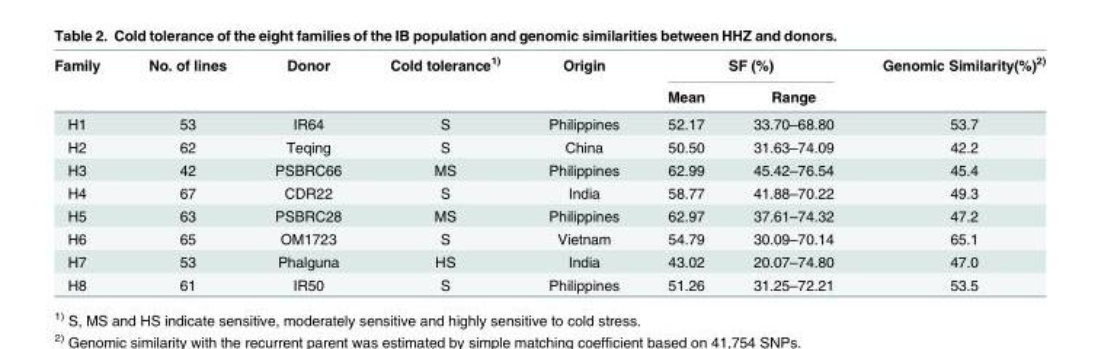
<table><thead><tr><td rowspan="2">Family</td><td rowspan="2">No. of lines</td><td rowspan="2">Donor</td><td rowspan="2">Cold tolerance<sup>1)</sup></td><td rowspan="2">Origin</td><td colspan="2">SF (%)</td><td rowspan="2">Genomic Similarity(%)<sup>2)</sup></td></tr><tr><td>Mean</td><td>Range</td></tr></thead><tbody><tr><td>H1</td><td>53</td><td>IR64</td><td>S</td><td>Philippines</td><td>52.17</td><td>33.70–68.80</td><td>53.7</td></tr><tr><td>H2</td><td>62</td><td>Teqing</td><td>S</td><td>China</td><td>50.50</td><td>31.63–74.09</td><td>42.2</td></tr><tr><td>H3</td><td>42</td><td>PSBRC66</td><td>MS</td><td>Philippines</td><td>62.99</td><td>45.42–76.54</td><td>45.4</td></tr><tr><td>H4</td><td>67</td><td>CDR22</td><td>S</td><td>India</td><td>58.77</td><td>41.88–70.22</td><td>49.3</td></tr><tr><td>H5</td><td>63</td><td>PSBRC28</td><td>MS</td><td>Philippines</td><td>62.97</td><td>37.61–74.32</td><td>47.2</td></tr><tr><td>H6</td><td>65</td><td>OM1723</td><td>S</td><td>Vietnam</td><td>54.79</td><td>30.09–70.14</td><td>65.1</td></tr><tr><td>H7</td><td>53</td><td>Phalguna</td><td>HS</td><td>India</td><td>43.02</td><td>20.07–74.80</td><td>47.0</td></tr><tr><td>H8</td><td>61</td><td>IR50</td><td>S</td><td>Philippines</td><td>51.26</td><td>31.25–72.21</td><td>53.5</td></tr></tbody></table>